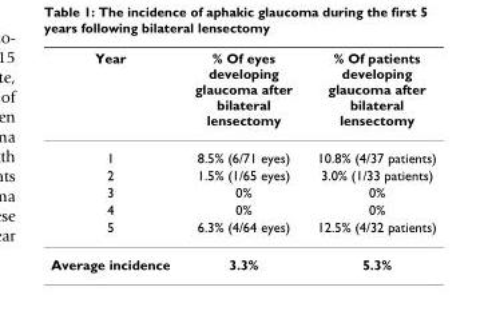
<table><thead><tr><td>Year</td><td>% Of eyes developing glaucoma after bilateral lensectomy</td><td>% Of patients developing glaucoma after bilateral lensectomy</td></tr></thead><tbody><tr><td>1</td><td>8.5% (6/71 eyes)</td><td>10.8% (4/37 patients)</td></tr><tr><td>2</td><td>1.5% (1/65 eyes)</td><td>3.0% (1/33 patients)</td></tr><tr><td>3</td><td>0%</td><td>0%</td></tr><tr><td>4</td><td>0%</td><td>0%</td></tr><tr><td>5</td><td>6.3% (4/64 eyes)</td><td>12.5% (4/32 patients)</td></tr><tr><td>Average incidence</td><td>3.3%</td><td>5.3%</td></tr></tbody></table>